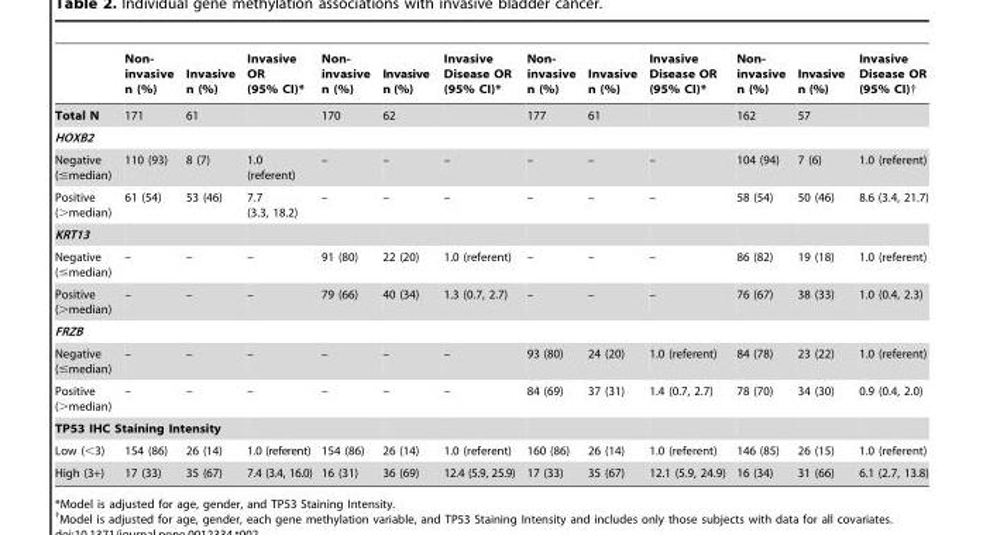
<table><thead><tr><td></td><td>Non- invasive n (%)</td><td>Invasive n (%)</td><td>Invasive OR (95% CI)*</td><td>Non- invasive n (%)</td><td>Invasive n (%)</td><td>Invasive Disease OR (95% CI)*</td><td>Non- invasive n (%)</td><td>Invasive n (%)</td><td>Invasive Disease OR (95% CI)*</td><td>Non- invasive n (%)</td><td>Invasive n (%)</td><td>Invasive Disease OR (95% CI)†</td></tr></thead><tbody><tr><td>Total N</td><td>171</td><td>61</td><td></td><td>170</td><td>62</td><td></td><td>177</td><td>61</td><td></td><td>162</td><td>57</td><td></td></tr><tr><td colspan="13">HOXB2</td></tr><tr><td>Negative (≤median)</td><td>110 (93)</td><td>8 (7)</td><td>1.0 (referent)</td><td>–</td><td>–</td><td>–</td><td>–</td><td>–</td><td>–</td><td>104 (94)</td><td>7 (6)</td><td>1.0 (referent)</td></tr><tr><td>Positive (&gt;median)</td><td>61 (54)</td><td>53 (46)</td><td>7.7 (3.3, 18.2)</td><td>–</td><td>–</td><td>–</td><td>–</td><td>–</td><td>–</td><td>58 (54)</td><td>50 (46)</td><td>8.6 (3.4, 21.7)</td></tr><tr><td colspan="13">KRT13</td></tr><tr><td>Negative (≤median)</td><td>–</td><td>–</td><td>–</td><td>91 (80)</td><td>22 (20)</td><td>1.0 (referent)</td><td>–</td><td>–</td><td>–</td><td>86 (82)</td><td>19 (18)</td><td>1.0 (referent)</td></tr><tr><td>Positive (&gt;median)</td><td>–</td><td>–</td><td>–</td><td>79 (66)</td><td>40 (34)</td><td>1.3 (0.7, 2.7)</td><td>–</td><td>–</td><td>–</td><td>76 (67)</td><td>38 (33)</td><td>1.0 (0.4, 2.3)</td></tr><tr><td colspan="13">FRZB</td></tr><tr><td>Negative (≤median)</td><td>–</td><td>–</td><td>–</td><td>–</td><td>–</td><td>–</td><td>93 (80)</td><td>24 (20)</td><td>1.0 (referent)</td><td>84 (78)</td><td>23 (22)</td><td>1.0 (referent)</td></tr><tr><td>Positive (&gt;median)</td><td>–</td><td>–</td><td>–</td><td>–</td><td>–</td><td>–</td><td>84 (69)</td><td>37 (31)</td><td>1.4 (0.7, 2.7)</td><td>78 (70)</td><td>34 (30)</td><td>0.9 (0.4, 2.0)</td></tr><tr><td colspan="13">TP53 IHC Staining Intensity</td></tr><tr><td>Low (&lt;3)</td><td>154 (86)</td><td>26 (14)</td><td>1.0 (referent)</td><td>154 (86)</td><td>26 (14)</td><td>1.0 (referent)</td><td>160 (86)</td><td>26 (14)</td><td>1.0 (referent)</td><td>146 (85)</td><td>26 (15)</td><td>1.0 (referent)</td></tr><tr><td>High (3+)</td><td>17 (33)</td><td>35 (67)</td><td>7.4 (3.4, 16.0)</td><td>16 (31)</td><td>36 (69)</td><td>12.4 (5.9, 25.9)</td><td>17 (33)</td><td>35 (67)</td><td>12.1 (5.9, 24.9)</td><td>16 (34)</td><td>31 (66)</td><td>6.1 (2.7, 13.8)</td></tr></tbody></table>